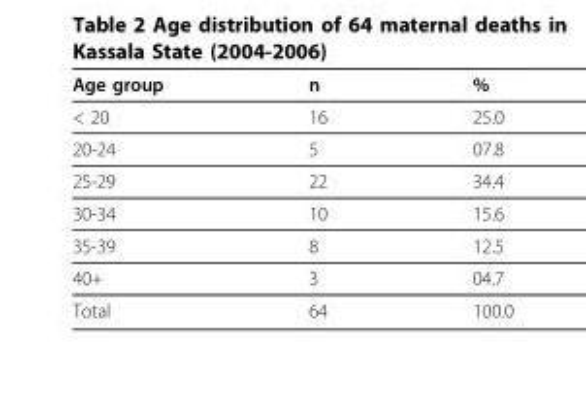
<table><thead><tr><td>Age group</td><td>n</td><td>%</td></tr></thead><tbody><tr><td>&lt; 20</td><td>16</td><td>25.0</td></tr><tr><td>20-24</td><td>5</td><td>07.8</td></tr><tr><td>25-29</td><td>22</td><td>34.4</td></tr><tr><td>30-34</td><td>10</td><td>15.6</td></tr><tr><td>35-39</td><td>8</td><td>12.5</td></tr><tr><td>40+</td><td>3</td><td>04.7</td></tr><tr><td>Total</td><td>64</td><td>100.0</td></tr></tbody></table>